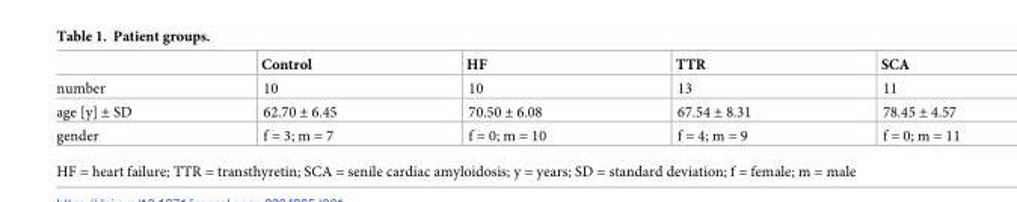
<table><thead><tr><td></td><td>Control</td><td>HF</td><td>TTR</td><td>SCA</td></tr></thead><tbody><tr><td>number</td><td>10</td><td>10</td><td>13</td><td>11</td></tr><tr><td>age [y] ± SD</td><td>62.70 ± 6.45</td><td>70.50 ± 6.08</td><td>67.54 ± 8.31</td><td>78.45 ± 4.57</td></tr><tr><td>gender</td><td>f = 3; m = 7</td><td>f = 0; m = 10</td><td>f = 4; m = 9</td><td>f = 0; m = 11</td></tr></tbody></table>